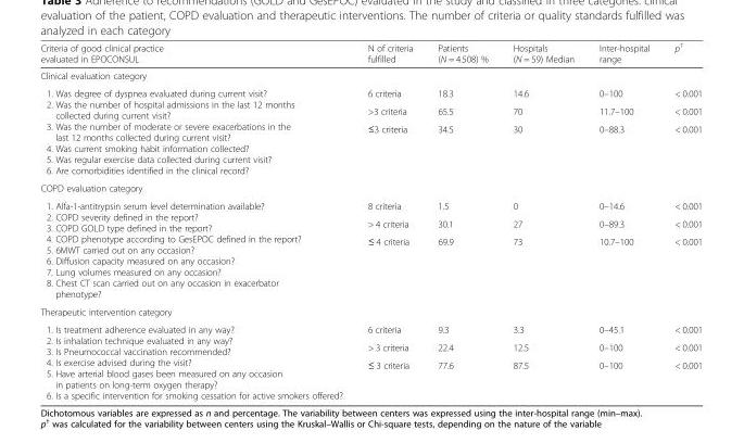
<table><thead><tr><td>Criteria of good clinical practice evaluated in EPOCONSUL</td><td>N of criteria fulfilled</td><td>Patients (N = 4.508) %</td><td>Hospitals (N = 59) Median</td><td>Inter-hospital range</td><td>p<sup>†</sup></td></tr></thead><tbody><tr><td colspan="6">Clinical evaluation category</td></tr><tr><td rowspan="3">1. Was degree of dyspnea evaluated during current visit? 2. Was the number of hospital admissions in the last 12 months collected during current visit? 3. Was the number of moderate or severe exacerbations in the last 12 months collected during current visit? 4. Was current smoking habit information collected? 5. Was regular exercise data collected during current visit? 6. Are comorbidities identified in the clinical record?</td><td>6 criteria</td><td>18.3</td><td>14.6</td><td>0–100</td><td>&lt; 0.001</td></tr><tr><td>&gt;3 criteria</td><td>65.5</td><td>70</td><td>11.7–100</td><td>&lt; 0.001</td></tr><tr><td>≤3 criteria</td><td>34.5</td><td>30</td><td>0–88.3</td><td>&lt; 0.001</td></tr><tr><td colspan="6">COPD evaluation category</td></tr><tr><td rowspan="3">1. Alfa-1-antitrypsin serum level determination available? 2. COPD severity defined in the report? 3. COPD GOLD type defined in the report? 4. COPD phenotype according to GesEPOC defined in the report? 5. 6MWT carried out on any occasion? 6. Diffusion capacity measured on any occasion? 7. Lung volumes measured on any occasion? 8. Chest CT scan carried out on any occasion in exacerbator phenotype?</td><td>8 criteria</td><td>1.5</td><td>0</td><td>0–14.6</td><td>&lt; 0.001</td></tr><tr><td>&gt; 4 criteria</td><td>30.1</td><td>27</td><td>0–89.3</td><td>&lt; 0.001</td></tr><tr><td>≤ 4 criteria</td><td>69.9</td><td>73</td><td>10.7–100</td><td>&lt; 0.001</td></tr><tr><td colspan="6">Therapeutic intervention category</td></tr><tr><td rowspan="3">1. Is treatment adherence evaluated in any way? 2. Is inhalation technique evaluated in any way? 3. Is Pneumococcal vaccination recommended? 4. Is exercise advised during the visit? 5. Have arterial blood gases been measured on any occasion in patients on long-term oxygen therapy? 6. Is a specific intervention for smoking cessation for active smokers offered?</td><td>6 criteria</td><td>9.3</td><td>3.3</td><td>0–45.1</td><td>&lt; 0.001</td></tr><tr><td>&gt; 3 criteria</td><td>22.4</td><td>12.5</td><td>0–100</td><td>&lt; 0.001</td></tr><tr><td>≤ 3 criteria</td><td>77.6</td><td>87.5</td><td>0–100</td><td>&lt; 0.001</td></tr></tbody></table>